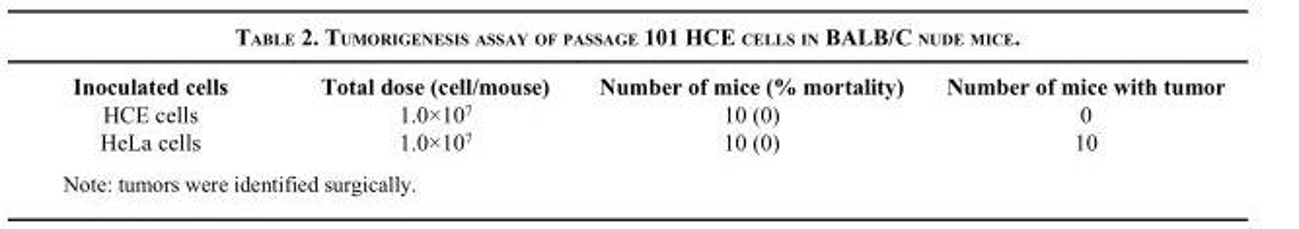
<table><thead><tr><td>Inoculated cells</td><td>Total dose (cell/mouse)</td><td>Number of mice (% mortality)</td><td>Number of mice with tumor</td></tr></thead><tbody><tr><td>HCE cells</td><td>1.0×10<sup>7</sup></td><td>10 (0)</td><td>0</td></tr><tr><td>HeLa cells</td><td>1.0×10<sup>7</sup></td><td>10 (0)</td><td>10</td></tr></tbody></table>